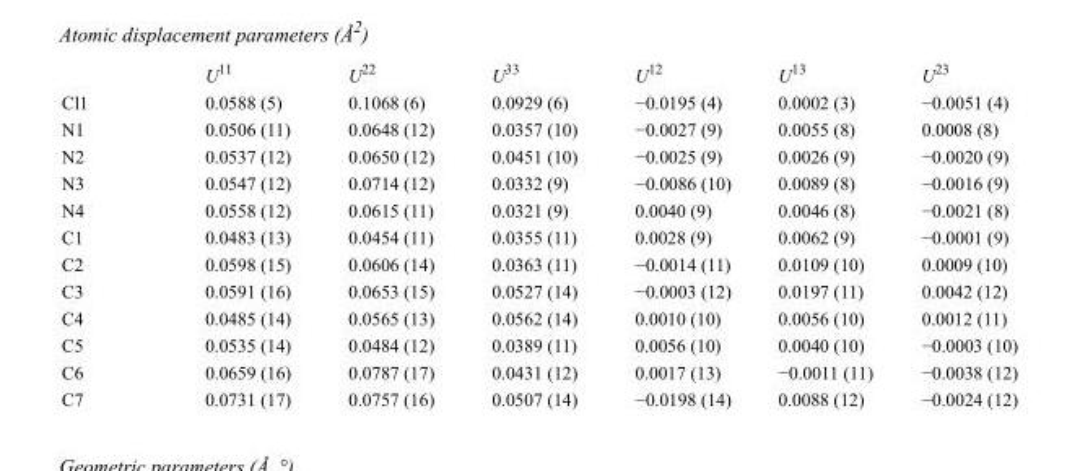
<table><thead><tr><td></td><td>U<sup>11</sup></td><td>U<sup>22</sup></td><td>U<sup>33</sup></td><td>U<sup>12</sup></td><td>U<sup>13</sup></td><td>U<sup>23</sup></td></tr></thead><tbody><tr><td>Cl1</td><td>0.0588 (5)</td><td>0.1068 (6)</td><td>0.0929 (6)</td><td>−0.0195 (4)</td><td>0.0002 (3)</td><td>−0.0051 (4)</td></tr><tr><td>N1</td><td>0.0506 (11)</td><td>0.0648 (12)</td><td>0.0357 (10)</td><td>−0.0027 (9)</td><td>0.0055 (8)</td><td>0.0008 (8)</td></tr><tr><td>N2</td><td>0.0537 (12)</td><td>0.0650 (12)</td><td>0.0451 (10)</td><td>−0.0025 (9)</td><td>0.0026 (9)</td><td>−0.0020 (9)</td></tr><tr><td>N3</td><td>0.0547 (12)</td><td>0.0714 (12)</td><td>0.0332 (9)</td><td>−0.0086 (10)</td><td>0.0089 (8)</td><td>−0.0016 (9)</td></tr><tr><td>N4</td><td>0.0558 (12)</td><td>0.0615 (11)</td><td>0.0321 (9)</td><td>0.0040 (9)</td><td>0.0046 (8)</td><td>−0.0021 (8)</td></tr><tr><td>C1</td><td>0.0483 (13)</td><td>0.0454 (11)</td><td>0.0355 (11)</td><td>0.0028 (9)</td><td>0.0062 (9)</td><td>−0.0001 (9)</td></tr><tr><td>C2</td><td>0.0598 (15)</td><td>0.0606 (14)</td><td>0.0363 (11)</td><td>−0.0014 (11)</td><td>0.0109 (10)</td><td>0.0009 (10)</td></tr><tr><td>C3</td><td>0.0591 (16)</td><td>0.0653 (15)</td><td>0.0527 (14)</td><td>−0.0003 (12)</td><td>0.0197 (11)</td><td>0.0042 (12)</td></tr><tr><td>C4</td><td>0.0485 (14)</td><td>0.0565 (13)</td><td>0.0562 (14)</td><td>0.0010 (10)</td><td>0.0056 (10)</td><td>0.0012 (11)</td></tr><tr><td>C5</td><td>0.0535 (14)</td><td>0.0484 (12)</td><td>0.0389 (11)</td><td>0.0056 (10)</td><td>0.0040 (10)</td><td>−0.0003 (10)</td></tr><tr><td>C6</td><td>0.0659 (16)</td><td>0.0787 (17)</td><td>0.0431 (12)</td><td>0.0017 (13)</td><td>−0.0011 (11)</td><td>−0.0038 (12)</td></tr><tr><td>C7</td><td>0.0731 (17)</td><td>0.0757 (16)</td><td>0.0507 (14)</td><td>−0.0198 (14)</td><td>0.0088 (12)</td><td>−0.0024 (12)</td></tr></tbody></table>